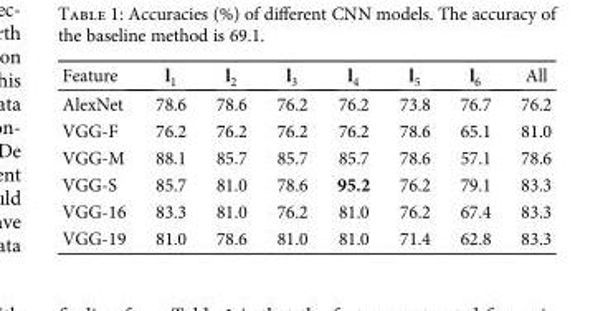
<table><thead><tr><td>Feature</td><td>l<sub>1</sub></td><td>l<sub>2</sub></td><td>l<sub>3</sub></td><td>l<sub>4</sub></td><td>l<sub>5</sub></td><td>l<sub>6</sub></td><td>All</td></tr></thead><tbody><tr><td>AlexNet</td><td>78.6</td><td>78.6</td><td>76.2</td><td>76.2</td><td>73.8</td><td>76.7</td><td>76.2</td></tr><tr><td>VGG-F</td><td>76.2</td><td>76.2</td><td>76.2</td><td>76.2</td><td>78.6</td><td>65.1</td><td>81.0</td></tr><tr><td>VGG-M</td><td>88.1</td><td>85.7</td><td>85.7</td><td>85.7</td><td>78.6</td><td>57.1</td><td>78.6</td></tr><tr><td>VGG-S</td><td>85.7</td><td>81.0</td><td>78.6</td><td>95.2</td><td>76.2</td><td>79.1</td><td>83.3</td></tr><tr><td>VGG-16</td><td>83.3</td><td>81.0</td><td>76.2</td><td>81.0</td><td>76.2</td><td>67.4</td><td>83.3</td></tr><tr><td>VGG-19</td><td>81.0</td><td>78.6</td><td>81.0</td><td>81.0</td><td>71.4</td><td>62.8</td><td>83.3</td></tr></tbody></table>